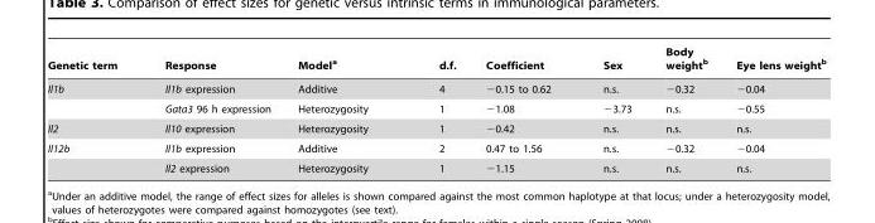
<table><thead><tr><td>Genetic term</td><td>Response</td><td>Model<sup>a</sup></td><td>d.f.</td><td>Coefficient</td><td>Sex</td><td>Body weight<sup>b</sup></td><td>Eye lens weight<sup>b</sup></td></tr></thead><tbody><tr><td rowspan="2">Il1b</td><td>Il1b expression</td><td>Additive</td><td>4</td><td>−0.15 to 0.62</td><td>n.s.</td><td>−0.32</td><td>−0.04</td></tr><tr><td>Gata3 96 h expression</td><td>Heterozygosity</td><td>1</td><td>−1.08</td><td>−3.73</td><td>n.s.</td><td>−0.55</td></tr><tr><td>Il2</td><td>Il10 expression</td><td>Heterozygosity</td><td>1</td><td>−0.42</td><td>n.s.</td><td>n.s.</td><td>n.s.</td></tr><tr><td rowspan="2">Il12b</td><td>Il1b expression</td><td>Additive</td><td>2</td><td>0.47 to 1.56</td><td>n.s.</td><td>−0.32</td><td>−0.04</td></tr><tr><td>Il2 expression</td><td>Heterozygosity</td><td>1</td><td>−1.15</td><td>n.s.</td><td>n.s.</td><td>n.s.</td></tr></tbody></table>